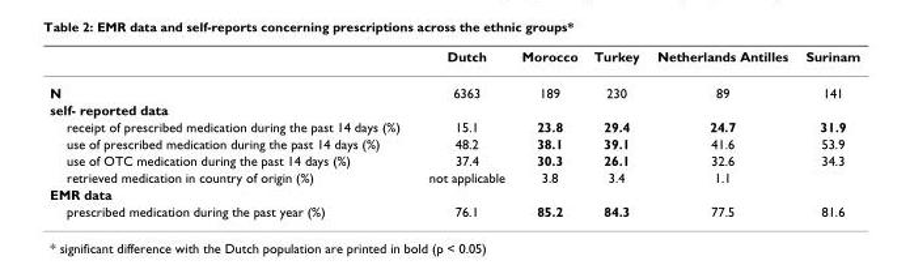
<table><thead><tr><td></td><td>Dutch</td><td>Morocco</td><td>Turkey</td><td>Netherlands Antilles</td><td>Surinam</td></tr></thead><tbody><tr><td>N</td><td>6363</td><td>189</td><td>230</td><td>89</td><td>141</td></tr><tr><td colspan="6">self- reported data</td></tr><tr><td>receipt of prescribed medication during the past 14 days (%)</td><td>15.1</td><td>23.8</td><td>29.4</td><td>24.7</td><td>31.9</td></tr><tr><td>use of prescribed medication during the past 14 days (%)</td><td>48.2</td><td>38.1</td><td>39.1</td><td>41.6</td><td>53.9</td></tr><tr><td>use of OTC medication during the past 14 days (%)</td><td>37.4</td><td>30.3</td><td>26.1</td><td>32.6</td><td>34.3</td></tr><tr><td>retrieved medication in country of origin (%)</td><td>not applicable</td><td>3.8</td><td>3.4</td><td>1.1</td><td></td></tr><tr><td colspan="6">EMR data</td></tr><tr><td>prescribed medication during the past year (%)</td><td>76.1</td><td>85.2</td><td>84.3</td><td>77.5</td><td>81.6</td></tr></tbody></table>